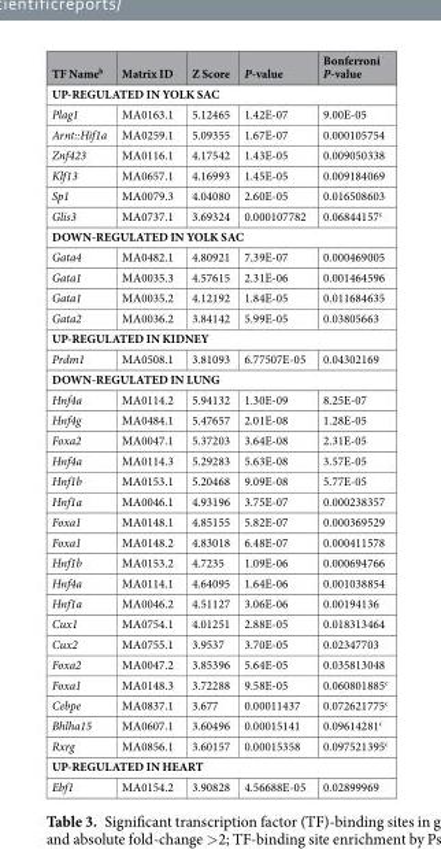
<table><thead><tr><td>TF Name<sup>b</sup></td><td>Matrix ID</td><td>Z Score</td><td>P-value</td><td>Bonferroni P-value</td></tr></thead><tbody><tr><td colspan="5">UP-REGULATED IN YOLK SAC</td></tr><tr><td>Plag1</td><td>MA0163.1</td><td>5.12465</td><td>1.42E-07</td><td>9.00E-05</td></tr><tr><td>Arnt::Hif1a</td><td>MA0259.1</td><td>5.09355</td><td>1.67E-07</td><td>0.000105754</td></tr><tr><td>Znf423</td><td>MA0116.1</td><td>4.17542</td><td>1.43E-05</td><td>0.009050338</td></tr><tr><td>Klf13</td><td>MA0657.1</td><td>4.16993</td><td>1.45E-05</td><td>0.009184069</td></tr><tr><td>Sp1</td><td>MA0079.3</td><td>4.04080</td><td>2.60E-05</td><td>0.016508603</td></tr><tr><td>Glis3</td><td>MA0737.1</td><td>3.69324</td><td>0.000107782</td><td>0.06844157<sup>c</sup></td></tr><tr><td colspan="5">DOWN-REGULATED IN YOLK SAC</td></tr><tr><td>Gata4</td><td>MA0482.1</td><td>4.80921</td><td>7.39E-07</td><td>0.000469005</td></tr><tr><td>Gata1</td><td>MA0035.3</td><td>4.57615</td><td>2.31E-06</td><td>0.001464596</td></tr><tr><td>Gata1</td><td>MA0035.2</td><td>4.12192</td><td>1.84E-05</td><td>0.011684635</td></tr><tr><td>Gata2</td><td>MA0036.2</td><td>3.84142</td><td>5.99E-05</td><td>0.03805663</td></tr><tr><td colspan="5">UP-REGULATED IN KIDNEY</td></tr><tr><td>Prdm1</td><td>MA0508.1</td><td>3.81093</td><td>6.77507E-05</td><td>0.04302169</td></tr><tr><td colspan="5">DOWN-REGULATED IN LUNG</td></tr><tr><td>Hnf4a</td><td>MA0114.2</td><td>5.94132</td><td>1.30E-09</td><td>8.25E-07</td></tr><tr><td>Hnf4g</td><td>MA0484.1</td><td>5.47657</td><td>2.01E-08</td><td>1.28E-05</td></tr><tr><td>Foxa2</td><td>MA0047.1</td><td>5.37203</td><td>3.64E-08</td><td>2.31E-05</td></tr><tr><td>Hnf4a</td><td>MA0114.3</td><td>5.29283</td><td>5.63E-08</td><td>3.57E-05</td></tr><tr><td>Hnf1b</td><td>MA0153.1</td><td>5.20468</td><td>9.09E-08</td><td>5.77E-05</td></tr><tr><td>Hnf1a</td><td>MA0046.1</td><td>4.93196</td><td>3.75E-07</td><td>0.000238357</td></tr><tr><td>Foxa1</td><td>MA0148.1</td><td>4.85155</td><td>5.82E-07</td><td>0.000369529</td></tr><tr><td>Foxa1</td><td>MA0148.2</td><td>4.83018</td><td>6.48E-07</td><td>0.000411578</td></tr><tr><td>Hnf1b</td><td>MA0153.2</td><td>4.7235</td><td>1.09E-06</td><td>0.000694766</td></tr><tr><td>Hnf4a</td><td>MA0114.1</td><td>4.64095</td><td>1.64E-06</td><td>0.001038854</td></tr><tr><td>Hnf1a</td><td>MA0046.2</td><td>4.51127</td><td>3.06E-06</td><td>0.00194136</td></tr><tr><td>Cux1</td><td>MA0754.1</td><td>4.01251</td><td>2.88E-05</td><td>0.018313464</td></tr><tr><td>Cux2</td><td>MA0755.1</td><td>3.9537</td><td>3.70E-05</td><td>0.02347703</td></tr><tr><td>Foxa2</td><td>MA0047.2</td><td>3.85396</td><td>5.64E-05</td><td>0.035813048</td></tr><tr><td>Foxa1</td><td>MA0148.3</td><td>3.72288</td><td>9.58E-05</td><td>0.060801885<sup>c</sup></td></tr><tr><td>Cebpe</td><td>MA0837.1</td><td>3.677</td><td>0.00011437</td><td>0.072621775<sup>c</sup></td></tr><tr><td>Bhlha15</td><td>MA0607.1</td><td>3.60496</td><td>0.00015141</td><td>0.09614281<sup>c</sup></td></tr><tr><td>Rxrg</td><td>MA0856.1</td><td>3.60157</td><td>0.00015358</td><td>0.097521395<sup>c</sup></td></tr><tr><td colspan="5">UP-REGULATED IN HEART</td></tr><tr><td>Ebf1</td><td>MA0154.2</td><td>3.90828</td><td>4.56688E-05</td><td>0.02899969</td></tr></tbody></table>